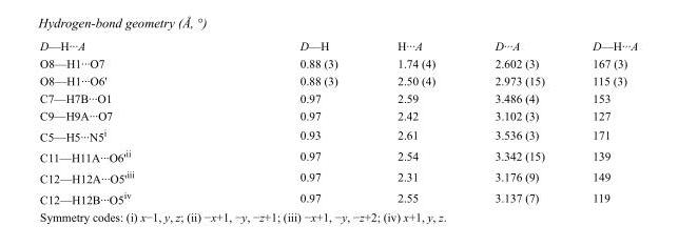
<table><tbody><tr><td>D—H···A</td><td>D—H</td><td>H···A</td><td>D···A</td><td>D—H···A</td></tr><tr><td>O8—H1···O7</td><td>0.88 (3)</td><td>1.74 (4)</td><td>2.602 (3)</td><td>167 (3)</td></tr><tr><td>O8—H1···O6&#x27;</td><td>0.88 (3)</td><td>2.50 (4)</td><td>2.973 (15)</td><td>115 (3)</td></tr><tr><td>C7—H7B···O1</td><td>0.97</td><td>2.59</td><td>3.486 (4)</td><td>153</td></tr><tr><td>C9—H9A···O7</td><td>0.97</td><td>2.42</td><td>3.102 (3)</td><td>127</td></tr><tr><td>C5—H5···N5<sup>i</sup></td><td>0.93</td><td>2.61</td><td>3.536 (3)</td><td>171</td></tr><tr><td>C11—H11A···O6&#x27;<sup>ii</sup></td><td>0.97</td><td>2.54</td><td>3.342 (15)</td><td>139</td></tr><tr><td>C12—H12A···O5&#x27;<sup>iii</sup></td><td>0.97</td><td>2.31</td><td>3.176 (9)</td><td>149</td></tr><tr><td>C12—H12B···O5<sup>iv</sup></td><td>0.97</td><td>2.55</td><td>3.137 (7)</td><td>119</td></tr></tbody></table>